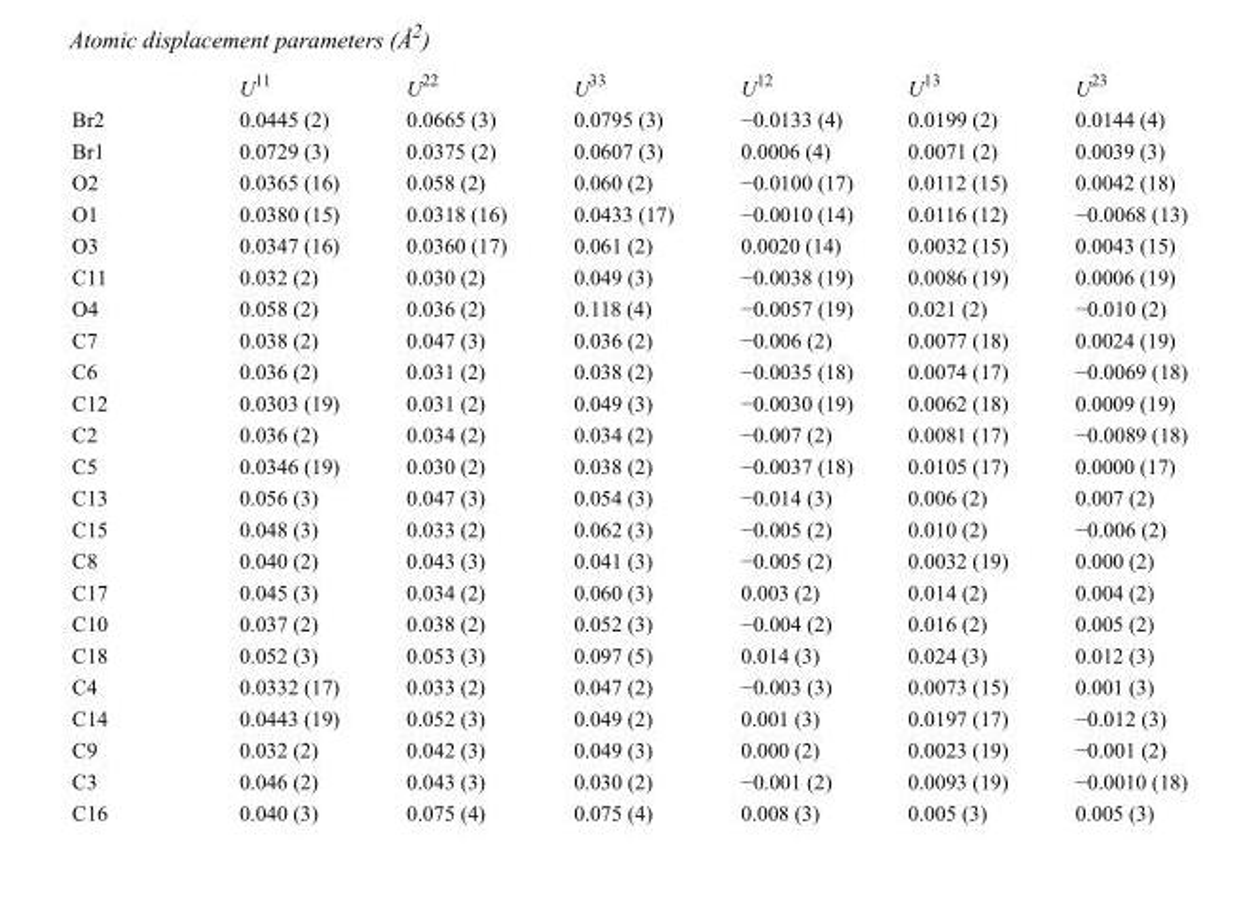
<table><thead><tr><td></td><td>U<sup>11</sup></td><td>U<sup>22</sup></td><td>U<sup>33</sup></td><td>U<sup>12</sup></td><td>U<sup>13</sup></td><td>U<sup>23</sup></td></tr></thead><tbody><tr><td>Br2</td><td>0.0445 (2)</td><td>0.0665 (3)</td><td>0.0795 (3)</td><td>−0.0133 (4)</td><td>0.0199 (2)</td><td>0.0144 (4)</td></tr><tr><td>Br1</td><td>0.0729 (3)</td><td>0.0375 (2)</td><td>0.0607 (3)</td><td>0.0006 (4)</td><td>0.0071 (2)</td><td>0.0039 (3)</td></tr><tr><td>O2</td><td>0.0365 (16)</td><td>0.058 (2)</td><td>0.060 (2)</td><td>−0.0100 (17)</td><td>0.0112 (15)</td><td>0.0042 (18)</td></tr><tr><td>O1</td><td>0.0380 (15)</td><td>0.0318 (16)</td><td>0.0433 (17)</td><td>−0.0010 (14)</td><td>0.0116 (12)</td><td>−0.0068 (13)</td></tr><tr><td>O3</td><td>0.0347 (16)</td><td>0.0360 (17)</td><td>0.061 (2)</td><td>0.0020 (14)</td><td>0.0032 (15)</td><td>0.0043 (15)</td></tr><tr><td>C11</td><td>0.032 (2)</td><td>0.030 (2)</td><td>0.049 (3)</td><td>−0.0038 (19)</td><td>0.0086 (19)</td><td>0.0006 (19)</td></tr><tr><td>O4</td><td>0.058 (2)</td><td>0.036 (2)</td><td>0.118 (4)</td><td>−0.0057 (19)</td><td>0.021 (2)</td><td>−0.010 (2)</td></tr><tr><td>C7</td><td>0.038 (2)</td><td>0.047 (3)</td><td>0.036 (2)</td><td>−0.006 (2)</td><td>0.0077 (18)</td><td>0.0024 (19)</td></tr><tr><td>C6</td><td>0.036 (2)</td><td>0.031 (2)</td><td>0.038 (2)</td><td>−0.0035 (18)</td><td>0.0074 (17)</td><td>−0.0069 (18)</td></tr><tr><td>C12</td><td>0.0303 (19)</td><td>0.031 (2)</td><td>0.049 (3)</td><td>−0.0030 (19)</td><td>0.0062 (18)</td><td>0.0009 (19)</td></tr><tr><td>C2</td><td>0.036 (2)</td><td>0.034 (2)</td><td>0.034 (2)</td><td>−0.007 (2)</td><td>0.0081 (17)</td><td>−0.0089 (18)</td></tr><tr><td>C5</td><td>0.0346 (19)</td><td>0.030 (2)</td><td>0.038 (2)</td><td>−0.0037 (18)</td><td>0.0105 (17)</td><td>0.0000 (17)</td></tr><tr><td>C13</td><td>0.056 (3)</td><td>0.047 (3)</td><td>0.054 (3)</td><td>−0.014 (3)</td><td>0.006 (2)</td><td>0.007 (2)</td></tr><tr><td>C15</td><td>0.048 (3)</td><td>0.033 (2)</td><td>0.062 (3)</td><td>−0.005 (2)</td><td>0.010 (2)</td><td>−0.006 (2)</td></tr><tr><td>C8</td><td>0.040 (2)</td><td>0.043 (3)</td><td>0.041 (3)</td><td>−0.005 (2)</td><td>0.0032 (19)</td><td>0.000 (2)</td></tr><tr><td>C17</td><td>0.045 (3)</td><td>0.034 (2)</td><td>0.060 (3)</td><td>0.003 (2)</td><td>0.014 (2)</td><td>0.004 (2)</td></tr><tr><td>C10</td><td>0.037 (2)</td><td>0.038 (2)</td><td>0.052 (3)</td><td>−0.004 (2)</td><td>0.016 (2)</td><td>0.005 (2)</td></tr><tr><td>C18</td><td>0.052 (3)</td><td>0.053 (3)</td><td>0.097 (5)</td><td>0.014 (3)</td><td>0.024 (3)</td><td>0.012 (3)</td></tr><tr><td>C4</td><td>0.0332 (17)</td><td>0.033 (2)</td><td>0.047 (2)</td><td>−0.003 (3)</td><td>0.0073 (15)</td><td>0.001 (3)</td></tr><tr><td>C14</td><td>0.0443 (19)</td><td>0.052 (3)</td><td>0.049 (2)</td><td>0.001 (3)</td><td>0.0197 (17)</td><td>−0.012 (3)</td></tr><tr><td>C9</td><td>0.032 (2)</td><td>0.042 (3)</td><td>0.049 (3)</td><td>0.000 (2)</td><td>0.0023 (19)</td><td>−0.001 (2)</td></tr><tr><td>C3</td><td>0.046 (2)</td><td>0.043 (3)</td><td>0.030 (2)</td><td>−0.001 (2)</td><td>0.0093 (19)</td><td>−0.0010 (18)</td></tr><tr><td>C16</td><td>0.040 (3)</td><td>0.075 (4)</td><td>0.075 (4)</td><td>0.008 (3)</td><td>0.005 (3)</td><td>0.005 (3)</td></tr></tbody></table>